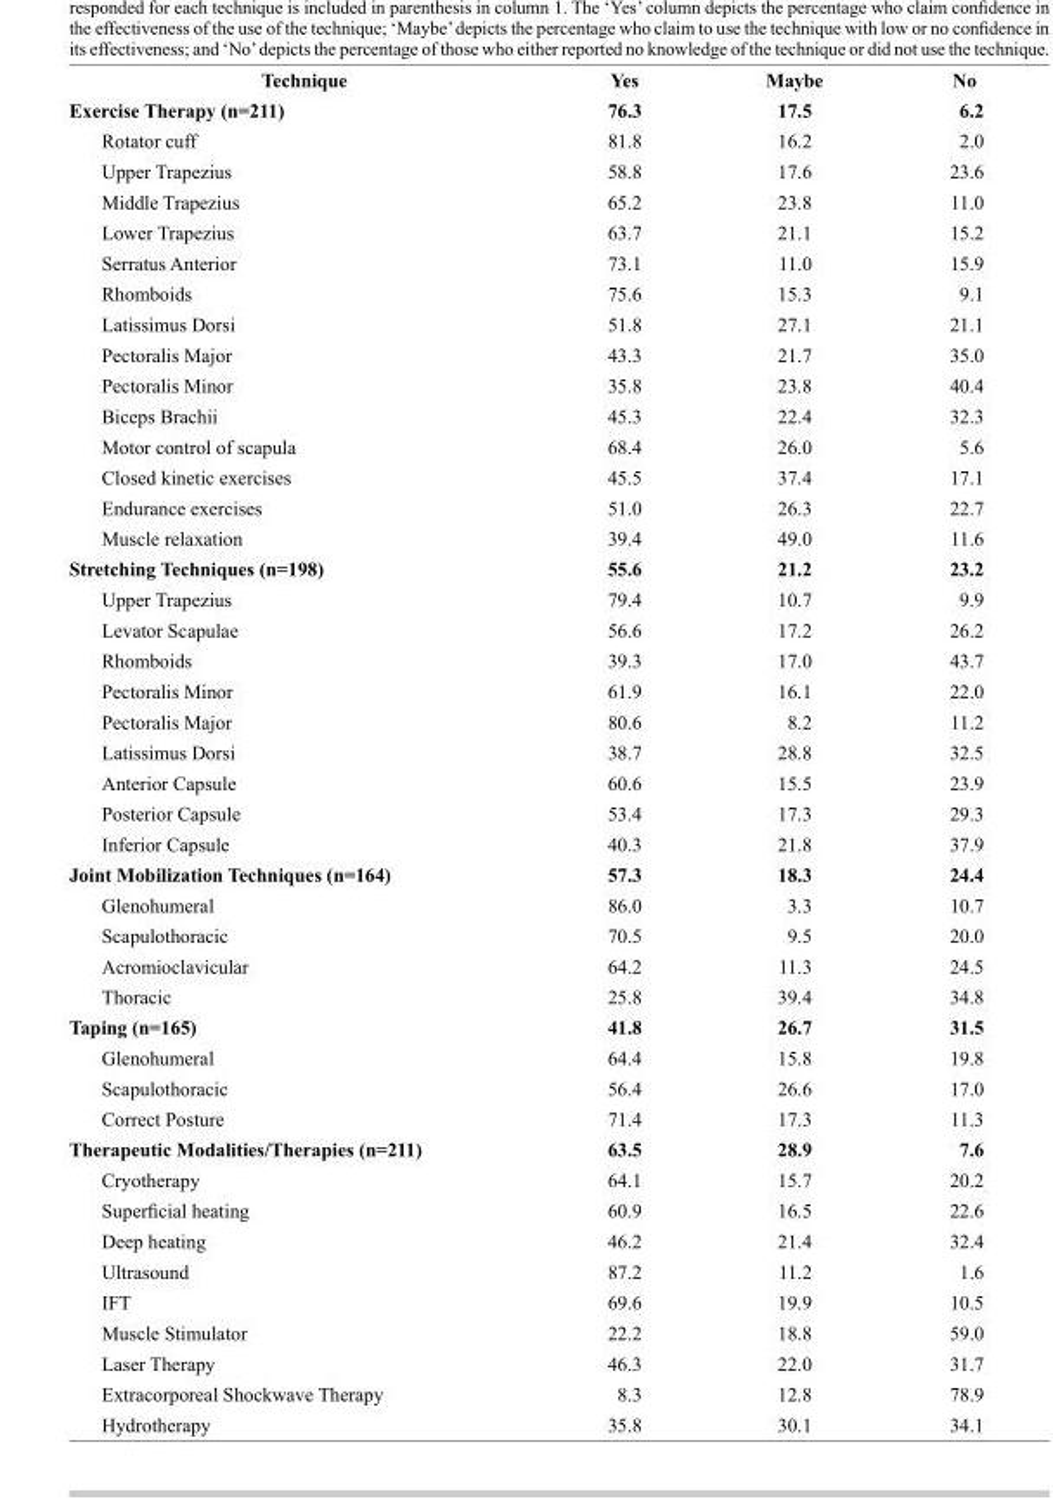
<table><thead><tr><td>Technique</td><td>Yes</td><td>Maybe</td><td>No</td></tr></thead><tbody><tr><td>Exercise Therapy (n=211)</td><td>76.3</td><td>17.5</td><td>6.2</td></tr><tr><td>Rotator cuff</td><td>81.8</td><td>16.2</td><td>2.0</td></tr><tr><td>Upper Trapezius</td><td>58.8</td><td>17.6</td><td>23.6</td></tr><tr><td>Middle Trapezius</td><td>65.2</td><td>23.8</td><td>11.0</td></tr><tr><td>Lower Trapezius</td><td>63.7</td><td>21.1</td><td>15.2</td></tr><tr><td>Serratus Anterior</td><td>73.1</td><td>11.0</td><td>15.9</td></tr><tr><td>Rhomboids</td><td>75.6</td><td>15.3</td><td>9.1</td></tr><tr><td>Latissimus Dorsi</td><td>51.8</td><td>27.1</td><td>21.1</td></tr><tr><td>Pectoralis Major</td><td>43.3</td><td>21.7</td><td>35.0</td></tr><tr><td>Pectoralis Minor</td><td>35.8</td><td>23.8</td><td>40.4</td></tr><tr><td>Biceps Brachii</td><td>45.3</td><td>22.4</td><td>32.3</td></tr><tr><td>Motor control of scapula</td><td>68.4</td><td>26.0</td><td>5.6</td></tr><tr><td>Closed kinetic exercises</td><td>45.5</td><td>37.4</td><td>17.1</td></tr><tr><td>Endurance exercises</td><td>51.0</td><td>26.3</td><td>22.7</td></tr><tr><td>Muscle relaxation</td><td>39.4</td><td>49.0</td><td>11.6</td></tr><tr><td>Stretching Techniques (n=198)</td><td>55.6</td><td>21.2</td><td>23.2</td></tr><tr><td>Upper Trapezius</td><td>79.4</td><td>10.7</td><td>9.9</td></tr><tr><td>Levator Scapulae</td><td>56.6</td><td>17.2</td><td>26.2</td></tr><tr><td>Rhomboids</td><td>39.3</td><td>17.0</td><td>43.7</td></tr><tr><td>Pectoralis Minor</td><td>61.9</td><td>16.1</td><td>22.0</td></tr><tr><td>Pectoralis Major</td><td>80.6</td><td>8.2</td><td>11.2</td></tr><tr><td>Latissimus Dorsi</td><td>38.7</td><td>28.8</td><td>32.5</td></tr><tr><td>Anterior Capsule</td><td>60.6</td><td>15.5</td><td>23.9</td></tr><tr><td>Posterior Capsule</td><td>53.4</td><td>17.3</td><td>29.3</td></tr><tr><td>Inferior Capsule</td><td>40.3</td><td>21.8</td><td>37.9</td></tr><tr><td>Joint Mobilization Techniques (n=164)</td><td>57.3</td><td>18.3</td><td>24.4</td></tr><tr><td>Glenohumeral</td><td>86.0</td><td>3.3</td><td>10.7</td></tr><tr><td>Scapulothoracic</td><td>70.5</td><td>9.5</td><td>20.0</td></tr><tr><td>Acromioclavicular</td><td>64.2</td><td>11.3</td><td>24.5</td></tr><tr><td>Thoracic</td><td>25.8</td><td>39.4</td><td>34.8</td></tr><tr><td>Taping (n=165)</td><td>41.8</td><td>26.7</td><td>31.5</td></tr><tr><td>Glenohumeral</td><td>64.4</td><td>15.8</td><td>19.8</td></tr><tr><td>Scapulothoracic</td><td>56.4</td><td>26.6</td><td>17.0</td></tr><tr><td>Correct Posture</td><td>71.4</td><td>17.3</td><td>11.3</td></tr><tr><td>Therapeutic Modalities/Therapies (n=211)</td><td>63.5</td><td>28.9</td><td>7.6</td></tr><tr><td>Cryotherapy</td><td>64.1</td><td>15.7</td><td>20.2</td></tr><tr><td>Superficial heating</td><td>60.9</td><td>16.5</td><td>22.6</td></tr><tr><td>Deep heating</td><td>46.2</td><td>21.4</td><td>32.4</td></tr><tr><td>Ultrasound</td><td>87.2</td><td>11.2</td><td>1.6</td></tr><tr><td>IFT</td><td>69.6</td><td>19.9</td><td>10.5</td></tr><tr><td>Muscle Stimulator</td><td>22.2</td><td>18.8</td><td>59.0</td></tr><tr><td>Laser Therapy</td><td>46.3</td><td>22.0</td><td>31.7</td></tr><tr><td>Extracorporeal Shockwave Therapy</td><td>8.3</td><td>12.8</td><td>78.9</td></tr><tr><td>Hydrotherapy</td><td>35.8</td><td>30.1</td><td>34.1</td></tr></tbody></table>